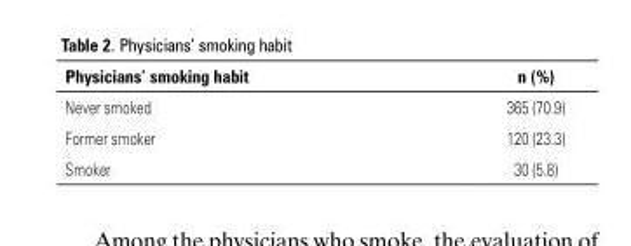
<table><thead><tr><td>Physicians’ smoking habit</td><td>n (%)</td></tr></thead><tbody><tr><td>Never smoked</td><td>365 (70.9)</td></tr><tr><td>Former smoker</td><td>120 (23.3)</td></tr><tr><td>Smoker</td><td>30 (5.8)</td></tr></tbody></table>